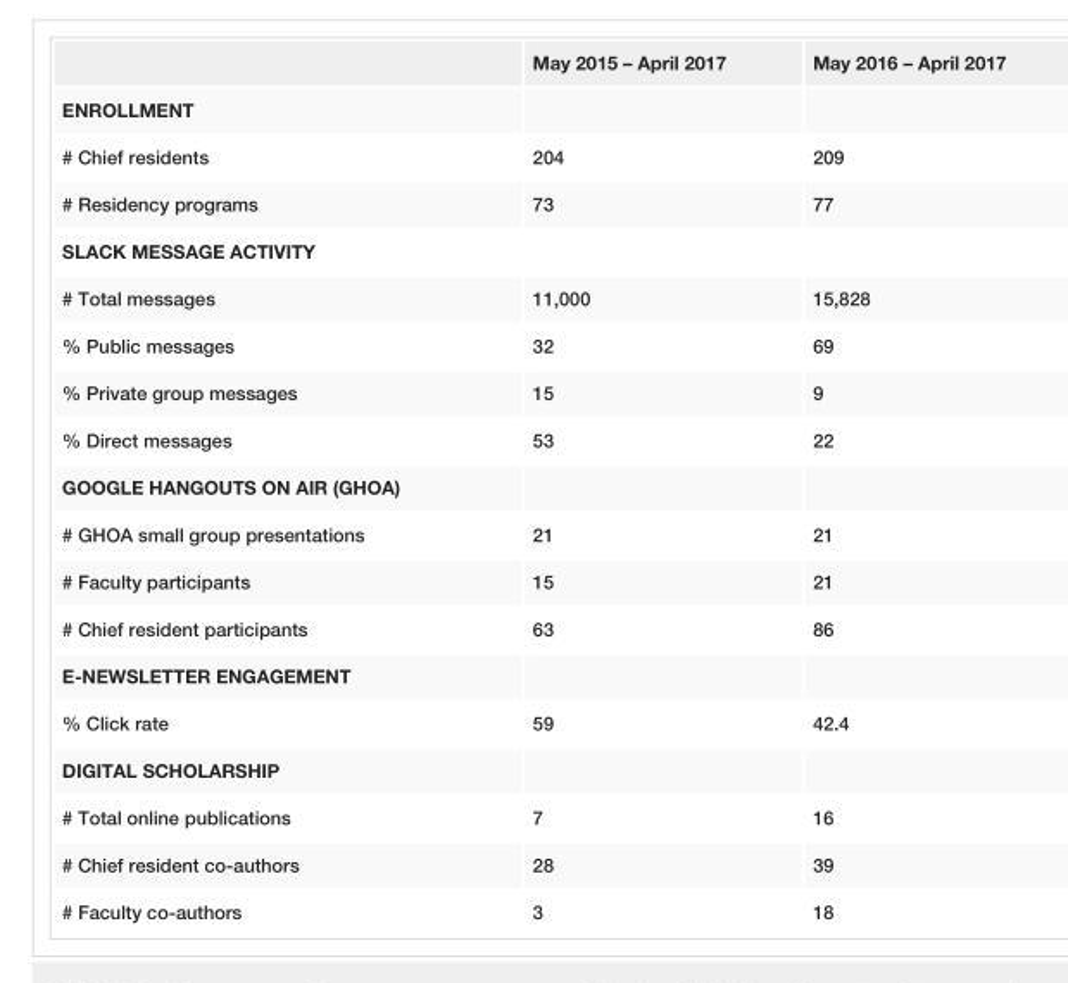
<table><thead><tr><td></td><td>May 2015 – April 2017</td><td>May 2016 – April 2017</td></tr></thead><tbody><tr><td colspan="3">ENROLLMENT</td></tr><tr><td># Chief residents</td><td>204</td><td>209</td></tr><tr><td># Residency programs</td><td>73</td><td>77</td></tr><tr><td colspan="3">SLACK MESSAGE ACTIVITY</td></tr><tr><td># Total messages</td><td>11,000</td><td>15,828</td></tr><tr><td>% Public messages</td><td>32</td><td>69</td></tr><tr><td>% Private group messages</td><td>15</td><td>9</td></tr><tr><td>% Direct messages</td><td>53</td><td>22</td></tr><tr><td colspan="3">GOOGLE HANGOUTS ON AIR (GHOA)</td></tr><tr><td># GHOA small group presentations</td><td>21</td><td>21</td></tr><tr><td># Faculty participants</td><td>15</td><td>21</td></tr><tr><td># Chief resident participants</td><td>63</td><td>86</td></tr><tr><td colspan="3">E-NEWSLETTER ENGAGEMENT</td></tr><tr><td>% Click rate</td><td>59</td><td>42.4</td></tr><tr><td colspan="3">DIGITAL SCHOLARSHIP</td></tr><tr><td># Total online publications</td><td>7</td><td>16</td></tr><tr><td># Chief resident co-authors</td><td>28</td><td>39</td></tr><tr><td># Faculty co-authors</td><td>3</td><td>18</td></tr></tbody></table>